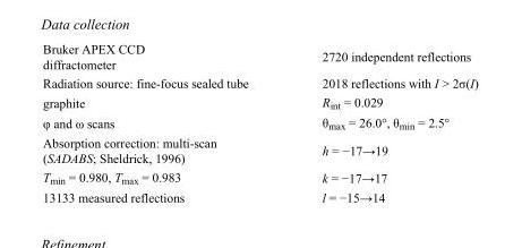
<table><tbody><tr><td>Bruker APEX CCD diffractometer</td><td>2720 independent reflections</td></tr><tr><td>Radiation source: fine-focus sealed tube</td><td>2018 reflections with I &gt; 2σ(I)</td></tr><tr><td>graphite</td><td>R<sub>int</sub> = 0.029</td></tr><tr><td>φ and ω scans</td><td>θ<sub>max</sub> = 26.0°, θ<sub>min</sub> = 2.5°</td></tr><tr><td>Absorption correction: multi-scan (SADABS; Sheldrick, 1996)</td><td>h = −17→19</td></tr><tr><td>T<sub>min</sub> = 0.980, T<sub>max</sub> = 0.983</td><td>k = −17→17</td></tr><tr><td>13133 measured reflections</td><td>l = −15→14</td></tr></tbody></table>